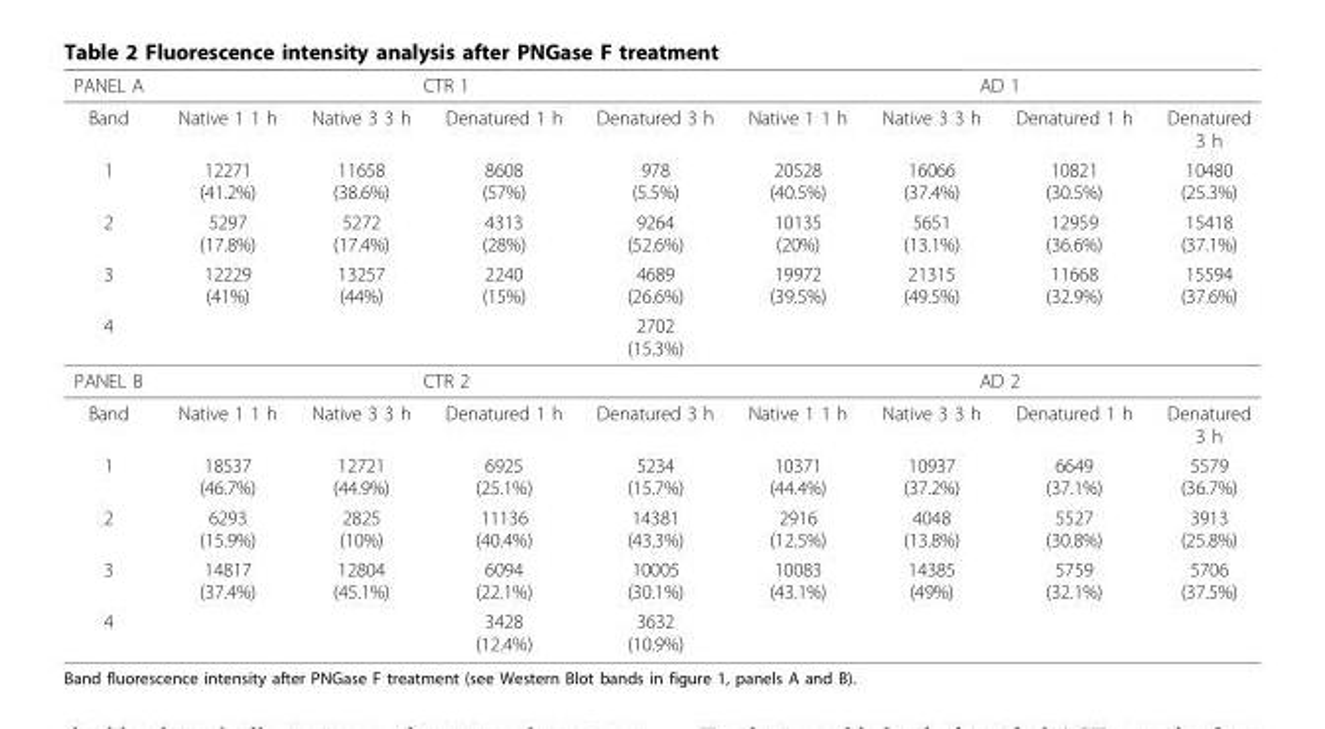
<table><thead><tr><td rowspan="2">PANEL A Band</td><td colspan="4">CTR 1</td><td colspan="4">AD 1</td></tr><tr><td>Native 1 1 h</td><td>Native 3 3 h</td><td>Denatured 1 h</td><td>Denatured 3 h</td><td>Native 1 1 h</td><td>Native 3 3 h</td><td>Denatured 1 h</td><td>Denatured 3 h</td></tr></thead><tbody><tr><td>1</td><td>12271 (41.2%)</td><td>11658 (38.6%)</td><td>8608 (57%)</td><td>978 (5.5%)</td><td>20528 (40.5%)</td><td>16066 (37.4%)</td><td>10821 (30.5%)</td><td>10480 (25.3%)</td></tr><tr><td>2</td><td>5297 (17.8%)</td><td>5272 (17.4%)</td><td>4313 (28%)</td><td>9264 (52.6%)</td><td>10135 (20%)</td><td>5651 (13.1%)</td><td>12959 (36.6%)</td><td>15418 (37.1%)</td></tr><tr><td>3</td><td>12229 (41%)</td><td>13257 (44%)</td><td>2240 (15%)</td><td>4689 (26.6%)</td><td>19972 (39.5%)</td><td>21315 (49.5%)</td><td>11668 (32.9%)</td><td>15594 (37.6%)</td></tr><tr><td>4</td><td></td><td></td><td></td><td>2702 (15.3%)</td><td></td><td></td><td></td><td></td></tr><tr><td>PANEL B</td><td colspan="4">CTR 2</td><td colspan="4">AD 2</td></tr><tr><td>Band</td><td>Native 1 1 h</td><td>Native 3 3 h</td><td>Denatured 1 h</td><td>Denatured 3 h</td><td>Native 1 1 h</td><td>Native 3 3 h</td><td>Denatured 1 h</td><td>Denatured 3 h</td></tr><tr><td>1</td><td>18537 (46.7%)</td><td>12721 (44.9%)</td><td>6925 (25.1%)</td><td>5234 (15.7%)</td><td>10371 (44.4%)</td><td>10937 (37.2%)</td><td>6649 (37.1%)</td><td>5579 (36.7%)</td></tr><tr><td>2</td><td>6293 (15.9%)</td><td>2825 (10%)</td><td>11136 (40.4%)</td><td>14381 (43.3%)</td><td>2916 (12.5%)</td><td>4048 (13.8%)</td><td>5527 (30.8%)</td><td>3913 (25.8%)</td></tr><tr><td>3</td><td>14817 (37.4%)</td><td>12804 (45.1%)</td><td>6094 (22.1%)</td><td>10005 (30.1%)</td><td>10083 (43.1%)</td><td>14385 (49%)</td><td>5759 (32.1%)</td><td>5706 (37.5%)</td></tr><tr><td>4</td><td></td><td></td><td>3428 (12.4%)</td><td>3632 (10.9%)</td><td></td><td></td><td></td><td></td></tr></tbody></table>